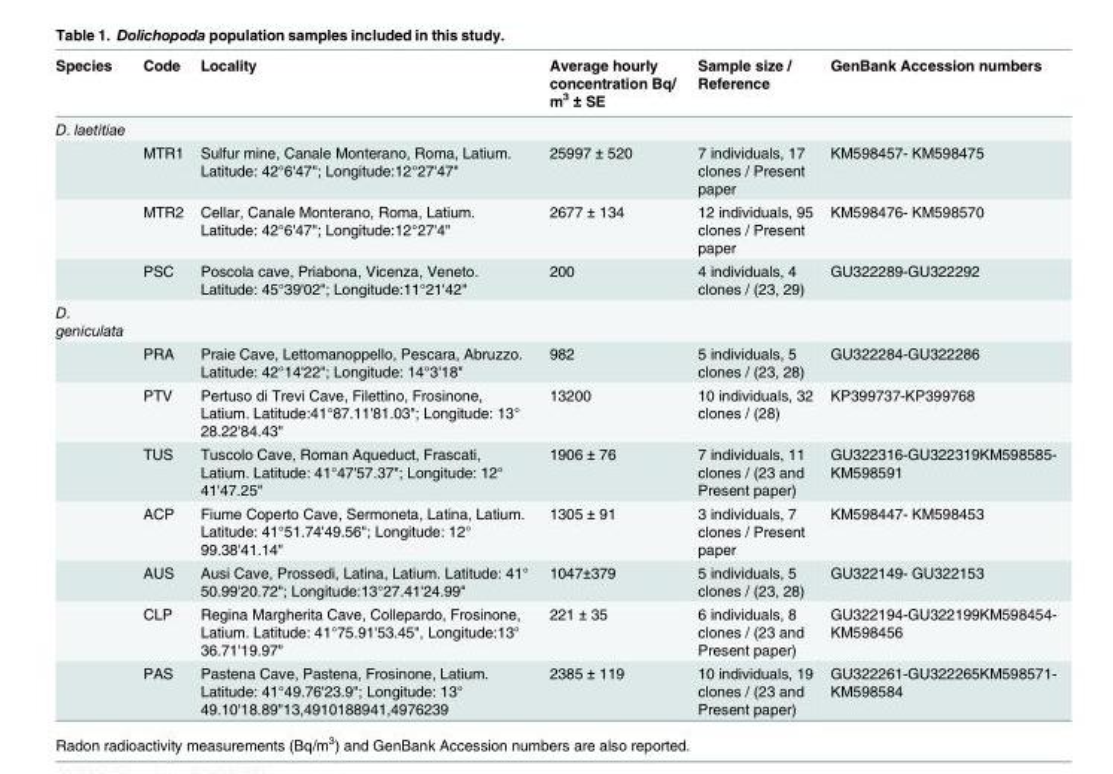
<table><thead><tr><td>Species</td><td>Code</td><td>Locality</td><td>Average hourly concentration Bq/ m<sup>3</sup> ± SE</td><td>Sample size / Reference</td><td>GenBank Accession numbers</td></tr></thead><tbody><tr><td colspan="6">D. laetitiae</td></tr><tr><td></td><td>MTR1</td><td>Sulfur mine, Canale Monterano, Roma, Latium. Latitude: 42°6&#x27;47&quot;; Longitude:12°27&#x27;47&quot;</td><td>25997 ± 520</td><td>7 individuals, 17 clones / Present paper</td><td>KM598457- KM598475</td></tr><tr><td></td><td>MTR2</td><td>Cellar, Canale Monterano, Roma, Latium. Latitude: 42°6&#x27;47&quot;; Longitude:12°27&#x27;4&quot;</td><td>2677 ± 134</td><td>12 individuals, 95 clones / Present paper</td><td>KM598476- KM598570</td></tr><tr><td></td><td>PSC</td><td>Poscola cave, Priabona, Vicenza, Veneto. Latitude: 45°39&#x27;02&quot;; Longitude:11°21&#x27;42&quot;</td><td>200</td><td>4 individuals, 4 clones / (23, 29)</td><td>GU322289-GU322292</td></tr><tr><td colspan="6">D. geniculata</td></tr><tr><td></td><td>PRA</td><td>Praie Cave, Lettomanoppello, Pescara, Abruzzo. Latitude: 42°14&#x27;22&quot;; Longitude: 14°3&#x27;18&quot;</td><td>982</td><td>5 individuals, 5 clones / (23, 28)</td><td>GU322284-GU322286</td></tr><tr><td></td><td>PTV</td><td>Pertuso di Trevi Cave, Filettino, Frosinone, Latium. Latitude:41°87.11&#x27;81.03&quot;; Longitude: 13° 28.22&#x27;84.43&quot;</td><td>13200</td><td>10 individuals, 32 clones / (28)</td><td>KP399737-KP399768</td></tr><tr><td></td><td>TUS</td><td>Tuscolo Cave, Roman Aqueduct, Frascati, Latium. Latitude: 41°47&#x27;57.37&quot;; Longitude: 12° 41&#x27;47.25&quot;</td><td>1906 ± 76</td><td>7 individuals, 11 clones / (23 and Present paper)</td><td>GU322316-GU322319KM598585- KM598591</td></tr><tr><td></td><td>ACP</td><td>Fiume Coperto Cave, Sermoneta, Latina, Latium. Latitude: 41°51.74&#x27;49.56&quot;; Longitude: 12° 99.38&#x27;41.14&quot;</td><td>1305 ± 91</td><td>3 individuals, 7 clones / Present paper</td><td>KM598447- KM598453</td></tr><tr><td></td><td>AUS</td><td>Ausi Cave, Prossedi, Latina, Latium. Latitude: 41° 50.99&#x27;20.72&quot;; Longitude:13°27.41&#x27;24.99&quot;</td><td>1047±379</td><td>5 individuals, 5 clones / (23, 28)</td><td>GU322149- GU322153</td></tr><tr><td></td><td>CLP</td><td>Regina Margherita Cave, Collepardo, Frosinone, Latium. Latitude: 41°75.91&#x27;53.45&quot;, Longitude:13° 36.71&#x27;19.97&quot;</td><td>221 ± 35</td><td>6 individuals, 8 clones / (23 and Present paper)</td><td>GU322194-GU322199KM598454- KM598456</td></tr><tr><td></td><td>PAS</td><td>Pastena Cave, Pastena, Frosinone, Latium. Latitude: 41°49.76&#x27;23.9&quot;; Longitude: 13° 49.10&#x27;18.89&quot;13,4910188941,4976239</td><td>2385 ± 119</td><td>10 individuals, 19 clones / (23 and Present paper)</td><td>GU322261-GU322265KM598571- KM598584</td></tr></tbody></table>